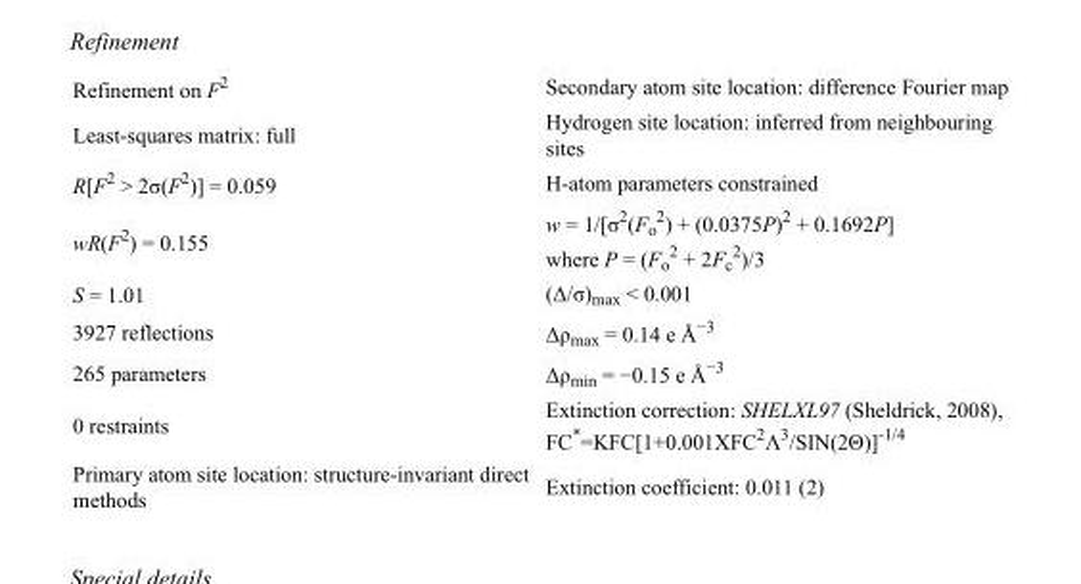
<table><tbody><tr><td>Refinement on F<sup>2</sup></td><td>Secondary atom site location: difference Fourier map</td></tr><tr><td>Least-squares matrix: full</td><td>Hydrogen site location: inferred from neighbouring sites</td></tr><tr><td>R[F<sup>2</sup> &gt; 2σ(F<sup>2</sup>)] = 0.059</td><td>H-atom parameters constrained</td></tr><tr><td>wR(F<sup>2</sup>) = 0.155</td><td>w = 1/[σ<sup>2</sup>(F<sub>o</sub> <sup>2</sup>) + (0.0375P)<sup>2</sup> + 0.1692P] where P = (F<sub>o</sub> <sup>2</sup> + 2F<sub>c</sub> <sup>2</sup>)/3</td></tr><tr><td>S = 1.01</td><td>(Δ/σ)<sub>max</sub> &lt; 0.001</td></tr><tr><td>3927 reflections</td><td>Δρ<sub>max</sub> = 0.14 e Å<sup>−3</sup></td></tr><tr><td>265 parameters</td><td>Δρ<sub>min</sub> = −0.15 e Å<sup>−3</sup></td></tr><tr><td>0 restraints</td><td>Extinction correction: SHELXL97 (Sheldrick, 2008), FC*=KFC[1+0.001XFC<sup>2</sup>Λ<sup>3</sup>/SIN(2Θ)]<sup>-1/4</sup></td></tr><tr><td>Primary atom site location: structure-invariant direct methods</td><td>Extinction coefficient: 0.011 (2)</td></tr></tbody></table>